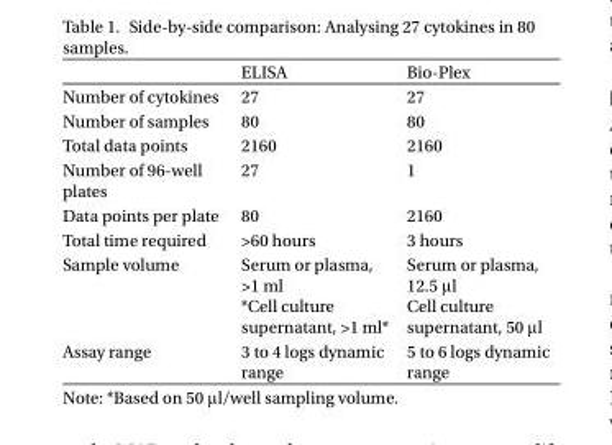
<table><thead><tr><td></td><td>ELISA</td><td>Bio-Plex</td></tr></thead><tbody><tr><td>Number of cytokines</td><td>27</td><td>27</td></tr><tr><td>Number of samples</td><td>80</td><td>80</td></tr><tr><td>Total data points</td><td>2160</td><td>2160</td></tr><tr><td>Number of 96-well plates</td><td>27</td><td>1</td></tr><tr><td>Data points per plate</td><td>80</td><td>2160</td></tr><tr><td>Total time required</td><td>&gt;60 hours</td><td>3 hours</td></tr><tr><td>Sample volume</td><td>Serum or plasma, &gt;1 ml *Cell culture supernatant, &gt;1 ml*</td><td>Serum or plasma, 12.5 μl Cell culture supernatant, 50 μl</td></tr><tr><td>Assay range</td><td>3 to 4 logs dynamic range</td><td>5 to 6 logs dynamic range</td></tr></tbody></table>